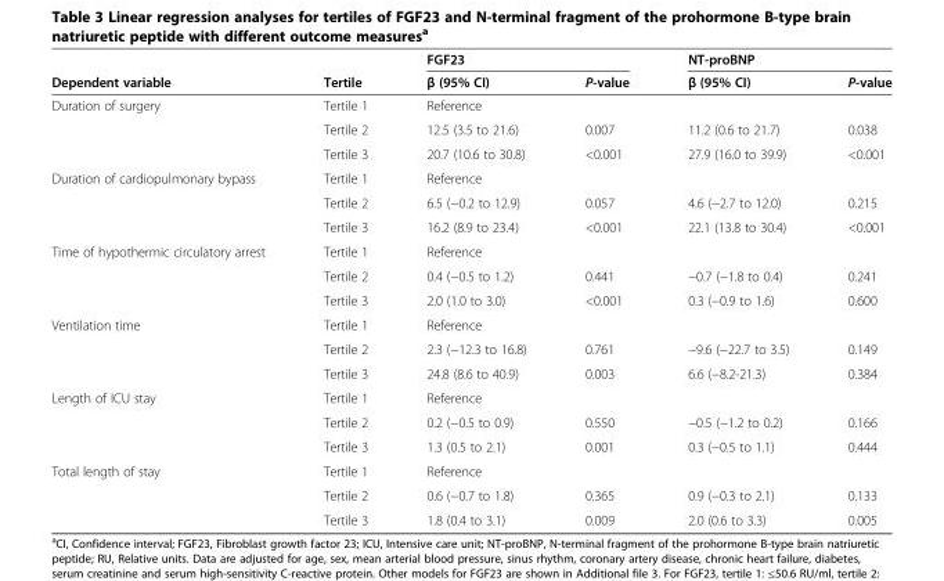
<table><thead><tr><td rowspan="2">Dependent variable</td><td rowspan="2">Tertile</td><td colspan="2">FGF23</td><td colspan="2">NT-proBNP</td></tr><tr><td>β (95% CI)</td><td>P-value</td><td>β (95% CI)</td><td>P-value</td></tr></thead><tbody><tr><td rowspan="3">Duration of surgery</td><td>Tertile 1</td><td colspan="4">Reference</td></tr><tr><td>Tertile 2</td><td>12.5 (3.5 to 21.6)</td><td>0.007</td><td>11.2 (0.6 to 21.7)</td><td>0.038</td></tr><tr><td>Tertile 3</td><td>20.7 (10.6 to 30.8)</td><td>&lt;0.001</td><td>27.9 (16.0 to 39.9)</td><td>&lt;0.001</td></tr><tr><td rowspan="3">Duration of cardiopulmonary bypass</td><td>Tertile 1</td><td colspan="4">Reference</td></tr><tr><td>Tertile 2</td><td>6.5 (−0.2 to 12.9)</td><td>0.057</td><td>4.6 (−2.7 to 12.0)</td><td>0.215</td></tr><tr><td>Tertile 3</td><td>16.2 (8.9 to 23.4)</td><td>&lt;0.001</td><td>22.1 (13.8 to 30.4)</td><td>&lt;0.001</td></tr><tr><td rowspan="3">Time of hypothermic circulatory arrest</td><td>Tertile 1</td><td colspan="4">Reference</td></tr><tr><td>Tertile 2</td><td>0.4 (−0.5 to 1.2)</td><td>0.441</td><td>−0.7 (−1.8 to 0.4)</td><td>0.241</td></tr><tr><td>Tertile 3</td><td>2.0 (1.0 to 3.0)</td><td>&lt;0.001</td><td>0.3 (−0.9 to 1.6)</td><td>0.600</td></tr><tr><td rowspan="3">Ventilation time</td><td>Tertile 1</td><td colspan="4">Reference</td></tr><tr><td>Tertile 2</td><td>2.3 (−12.3 to 16.8)</td><td>0.761</td><td>−9.6 (−22.7 to 3.5)</td><td>0.149</td></tr><tr><td>Tertile 3</td><td>24.8 (8.6 to 40.9)</td><td>0.003</td><td>6.6 (−8.2-21.3)</td><td>0.384</td></tr><tr><td rowspan="3">Length of ICU stay</td><td>Tertile 1</td><td colspan="4">Reference</td></tr><tr><td>Tertile 2</td><td>0.2 (−0.5 to 0.9)</td><td>0.550</td><td>−0.5 (−1.2 to 0.2)</td><td>0.166</td></tr><tr><td>Tertile 3</td><td>1.3 (0.5 to 2.1)</td><td>0.001</td><td>0.3 (−0.5 to 1.1)</td><td>0.444</td></tr><tr><td rowspan="3">Total length of stay</td><td>Tertile 1</td><td colspan="4">Reference</td></tr><tr><td>Tertile 2</td><td>0.6 (−0.7 to 1.8)</td><td>0.365</td><td>0.9 (−0.3 to 2.1)</td><td>0.133</td></tr><tr><td>Tertile 3</td><td>1.8 (0.4 to 3.1)</td><td>0.009</td><td>2.0 (0.6 to 3.3)</td><td>0.005</td></tr></tbody></table>